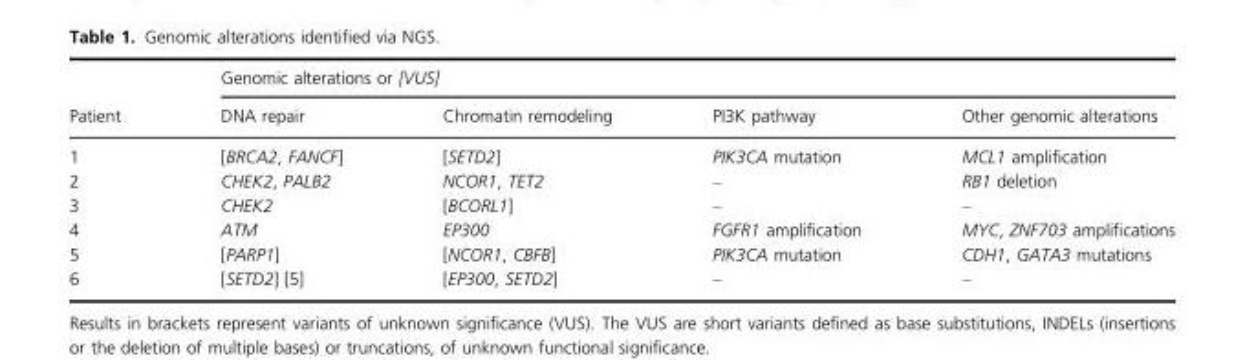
<table><thead><tr><td rowspan="2">Patient</td><td colspan="4">Genomic alterations or [VUS]</td></tr><tr><td>DNA repair</td><td>Chromatin remodeling</td><td>PI3K pathway</td><td>Other genomic alterations</td></tr></thead><tbody><tr><td>1</td><td>[BRCA2, FANCF]</td><td>[SETD2]</td><td>PIK3CA mutation</td><td>MCL1 amplification</td></tr><tr><td>2</td><td>CHEK2, PALB2</td><td>NCOR1, TET2</td><td>–</td><td>RB1 deletion</td></tr><tr><td>3</td><td>CHEK2</td><td>[BCORL1]</td><td>–</td><td>–</td></tr><tr><td>4</td><td>ATM</td><td>EP300</td><td>FGFR1 amplification</td><td>MYC, ZNF703 amplifications</td></tr><tr><td>5</td><td>[PARP1]</td><td>[NCOR1, CBFB]</td><td>PIK3CA mutation</td><td>CDH1, GATA3 mutations</td></tr><tr><td>6</td><td>[SETD2] [5]</td><td>[EP300, SETD2]</td><td>–</td><td>–</td></tr></tbody></table>